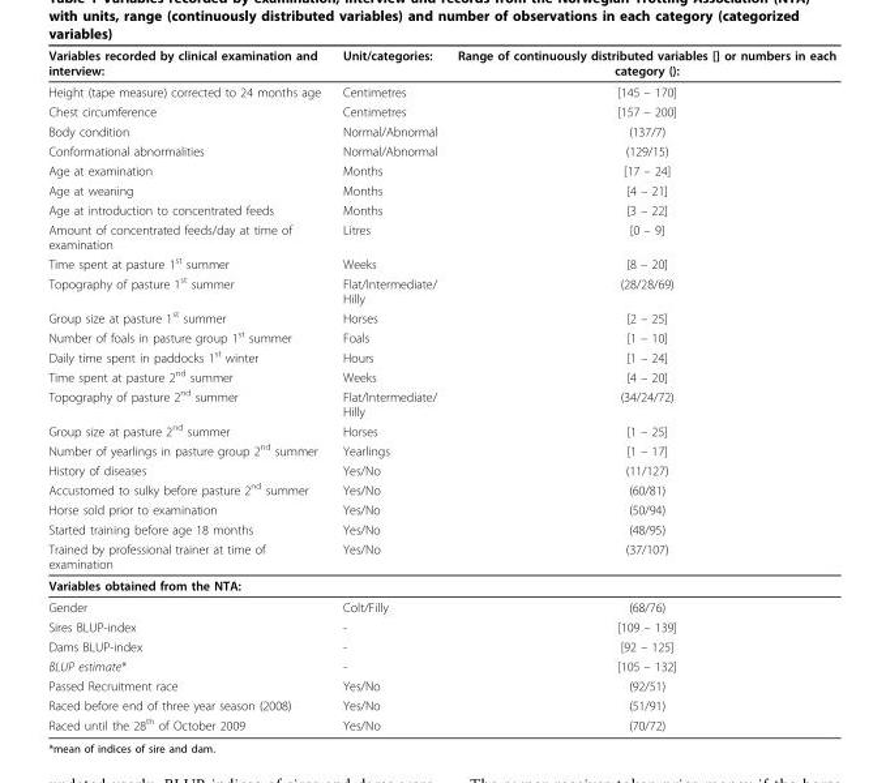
<table><thead><tr><td>Variables recorded by clinical examination and interview:</td><td>Unit/categories:</td><td>Range of continuously distributed variables [] or numbers in each category ():</td></tr></thead><tbody><tr><td>Height (tape measure) corrected to 24 months age</td><td>Centimetres</td><td>[145 – 170]</td></tr><tr><td>Chest circumference</td><td>Centimetres</td><td>[157 – 200]</td></tr><tr><td>Body condition</td><td>Normal/Abnormal</td><td>(137/7)</td></tr><tr><td>Conformational abnormalities</td><td>Normal/Abnormal</td><td>(129/15)</td></tr><tr><td>Age at examination</td><td>Months</td><td>[17 – 24]</td></tr><tr><td>Age at weaning</td><td>Months</td><td>[4 – 21]</td></tr><tr><td>Age at introduction to concentrated feeds</td><td>Months</td><td>[3 – 22]</td></tr><tr><td>Amount of concentrated feeds/day at time of examination</td><td>Litres</td><td>[0 – 9]</td></tr><tr><td>Time spent at pasture 1<sup>st</sup> summer</td><td>Weeks</td><td>[8 – 20]</td></tr><tr><td>Topography of pasture 1<sup>st</sup> summer</td><td>Flat/Intermediate/ Hilly</td><td>(28/28/69)</td></tr><tr><td>Group size at pasture 1<sup>st</sup> summer</td><td>Horses</td><td>[2 – 25]</td></tr><tr><td>Number of foals in pasture group 1<sup>st</sup> summer</td><td>Foals</td><td>[1 – 10]</td></tr><tr><td>Daily time spent in paddocks 1<sup>st</sup> winter</td><td>Hours</td><td>[1 – 24]</td></tr><tr><td>Time spent at pasture 2<sup>nd</sup> summer</td><td>Weeks</td><td>[4 – 20]</td></tr><tr><td>Topography of pasture 2<sup>nd</sup> summer</td><td>Flat/Intermediate/ Hilly</td><td>(34/24/72)</td></tr><tr><td>Group size at pasture 2<sup>nd</sup> summer</td><td>Horses</td><td>[1 – 25]</td></tr><tr><td>Number of yearlings in pasture group 2<sup>nd</sup> summer</td><td>Yearlings</td><td>[1 – 17]</td></tr><tr><td>History of diseases</td><td>Yes/No</td><td>(11/127)</td></tr><tr><td>Accustomed to sulky before pasture 2<sup>nd</sup> summer</td><td>Yes/No</td><td>(60/81)</td></tr><tr><td>Horse sold prior to examination</td><td>Yes/No</td><td>(50/94)</td></tr><tr><td>Started training before age 18 months</td><td>Yes/No</td><td>(48/95)</td></tr><tr><td>Trained by professional trainer at time of examination</td><td>Yes/No</td><td>(37/107)</td></tr><tr><td colspan="3">Variables obtained from the NTA:</td></tr><tr><td>Gender</td><td>Colt/Filly</td><td>(68/76)</td></tr><tr><td>Sires BLUP-index</td><td>-</td><td>[109 – 139]</td></tr><tr><td>Dams BLUP-index</td><td>-</td><td>[92 – 125]</td></tr><tr><td>BLUP estimate*</td><td>-</td><td>[105 – 132]</td></tr><tr><td>Passed Recruitment race</td><td>Yes/No</td><td>(92/51)</td></tr><tr><td>Raced before end of three year season (2008)</td><td>Yes/No</td><td>(51/91)</td></tr><tr><td>Raced until the 28<sup>th</sup> of October 2009</td><td>Yes/No</td><td>(70/72)</td></tr></tbody></table>